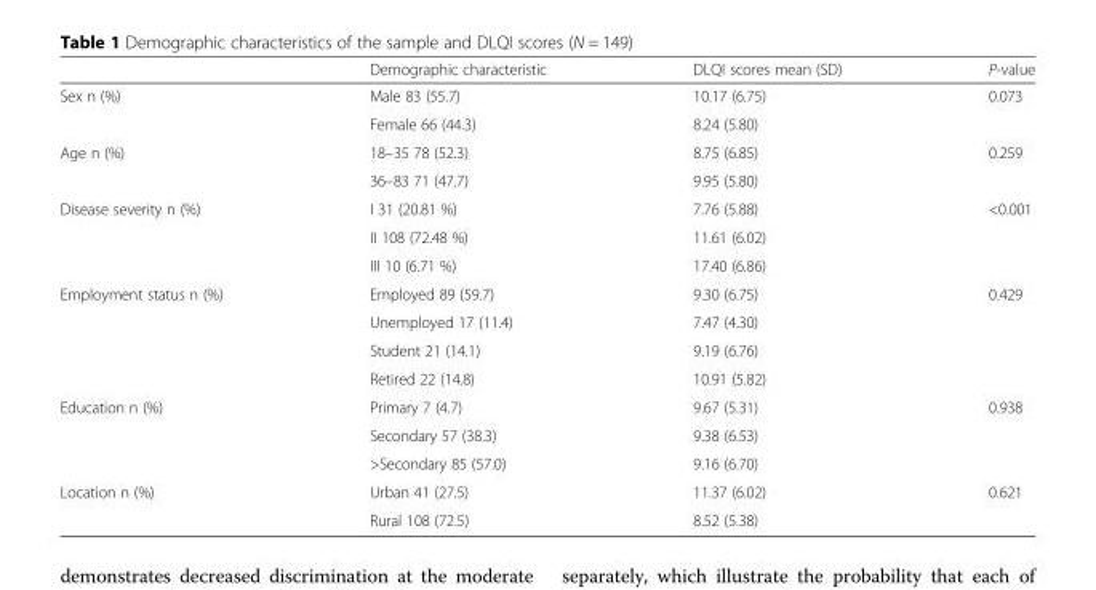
<table><thead><tr><td></td><td>Demographic characteristic</td><td>DLQI scores mean (SD)</td><td>P-value</td></tr></thead><tbody><tr><td rowspan="2">Sex n (%)</td><td>Male 83 (55.7)</td><td>10.17 (6.75)</td><td rowspan="2">0.073</td></tr><tr><td>Female 66 (44.3)</td><td>8.24 (5.80)</td></tr><tr><td rowspan="2">Age n (%)</td><td>18–35 78 (52.3)</td><td>8.75 (6.85)</td><td rowspan="2">0.259</td></tr><tr><td>36–83 71 (47.7)</td><td>9.95 (5.80)</td></tr><tr><td rowspan="3">Disease severity n (%)</td><td>I 31 (20.81 %)</td><td>7.76 (5.88)</td><td rowspan="3">&lt;0.001</td></tr><tr><td>II 108 (72.48 %)</td><td>11.61 (6.02)</td></tr><tr><td>III 10 (6.71 %)</td><td>17.40 (6.86)</td></tr><tr><td rowspan="4">Employment status n (%)</td><td>Employed 89 (59.7)</td><td>9.30 (6.75)</td><td rowspan="4">0.429</td></tr><tr><td>Unemployed 17 (11.4)</td><td>7.47 (4.30)</td></tr><tr><td>Student 21 (14.1)</td><td>9.19 (6.76)</td></tr><tr><td>Retired 22 (14.8)</td><td>10.91 (5.82)</td></tr><tr><td rowspan="3">Education n (%)</td><td>Primary 7 (4.7)</td><td>9.67 (5.31)</td><td rowspan="3">0.938</td></tr><tr><td>Secondary 57 (38.3)</td><td>9.38 (6.53)</td></tr><tr><td>&gt;Secondary 85 (57.0)</td><td>9.16 (6.70)</td></tr><tr><td rowspan="2">Location n (%)</td><td>Urban 41 (27.5)</td><td>11.37 (6.02)</td><td rowspan="2">0.621</td></tr><tr><td>Rural 108 (72.5)</td><td>8.52 (5.38)</td></tr></tbody></table>